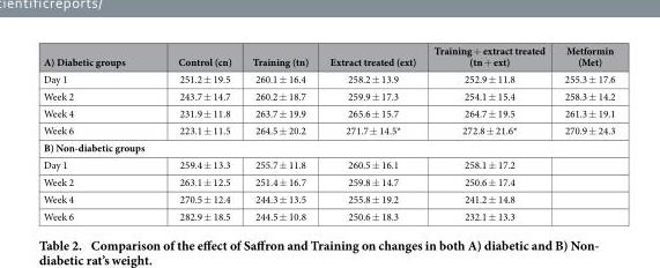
<table><thead><tr><td>A) Diabetic groups</td><td>Control (cn)</td><td>Training (tn)</td><td>Extract treated (ext)</td><td>Training + extract treated (tn + ext)</td><td>Metformin (Met)</td></tr></thead><tbody><tr><td>Day 1</td><td>251.2 ± 19.5</td><td>260.1 ± 16.4</td><td>258.2 ± 13.9</td><td>252.9 ± 11.8</td><td>255.3 ± 17.6</td></tr><tr><td>Week 2</td><td>243.7 ± 14.7</td><td>260.2 ± 18.7</td><td>259.9 ± 17.3</td><td>254.1 ± 15.4</td><td>258.3 ± 14.2</td></tr><tr><td>Week 4</td><td>231.9 ± 11.8</td><td>263.7 ± 19.9</td><td>265.6 ± 15.7</td><td>264.7 ± 19.5</td><td>261.3 ± 19.1</td></tr><tr><td>Week 6</td><td>223.1 ± 11.5</td><td>264.5 ± 20.2</td><td>271.7 ± 14.5*</td><td>272.8 ± 21.6*</td><td>270.9 ± 24.3</td></tr><tr><td colspan="6">B) Non-diabetic groups</td></tr><tr><td>Day 1</td><td>259.4 ± 13.3</td><td>255.7 ± 11.8</td><td>260.5 ± 16.1</td><td>258.1 ± 17.2</td><td></td></tr><tr><td>Week 2</td><td>263.1 ± 12.5</td><td>251.4 ± 16.7</td><td>259.8 ± 14.7</td><td>250.6 ± 17.4</td><td></td></tr><tr><td>Week 4</td><td>270.5 ± 12.4</td><td>244.3 ± 13.5</td><td>255.8 ± 19.2</td><td>241.2 ± 14.8</td><td></td></tr><tr><td>Week 6</td><td>282.9 ± 18.5</td><td>244.5 ± 10.8</td><td>250.6 ± 18.3</td><td>232.1 ± 13.3</td><td></td></tr></tbody></table>